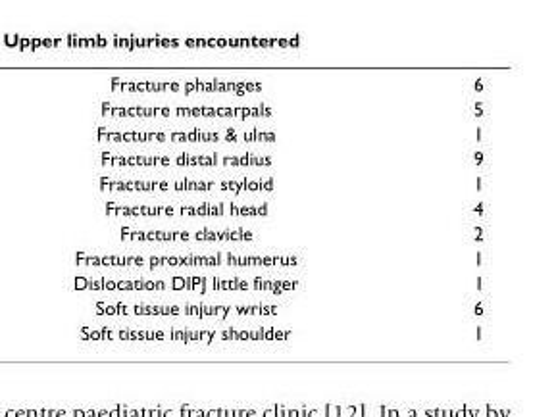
<table><tbody><tr><td>Fracture phalanges</td><td>6</td></tr><tr><td>Fracture metacarpals</td><td>5</td></tr><tr><td>Fracture radius &amp; ulna</td><td>1</td></tr><tr><td>Fracture distal radius</td><td>9</td></tr><tr><td>Fracture ulnar styloid</td><td>1</td></tr><tr><td>Fracture radial head</td><td>4</td></tr><tr><td>Fracture clavicle</td><td>2</td></tr><tr><td>Fracture proximal humerus</td><td>1</td></tr><tr><td>Dislocation DIPJ little finger</td><td>1</td></tr><tr><td>Soft tissue injury wrist</td><td>6</td></tr><tr><td>Soft tissue injury shoulder</td><td>1</td></tr></tbody></table>